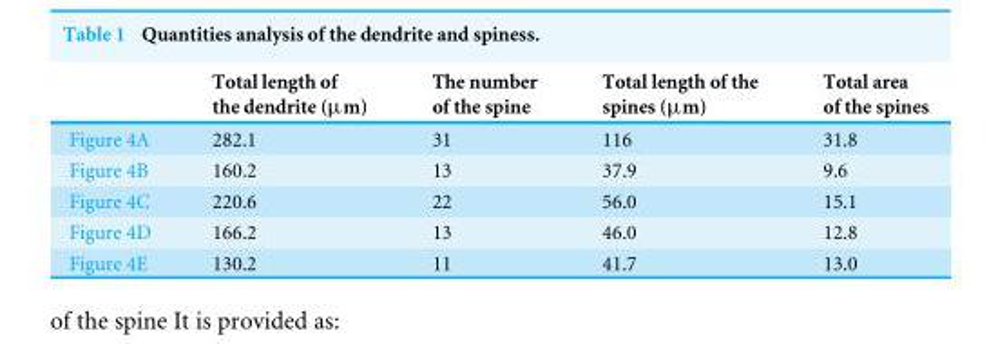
<table><thead><tr><td></td><td>Total length of the dendrite (µm)</td><td>The number of the spine</td><td>Total length of the spines (µm)</td><td>Total area of the spines</td></tr></thead><tbody><tr><td>Figure 4A</td><td>282.1</td><td>31</td><td>116</td><td>31.8</td></tr><tr><td>Figure 4B</td><td>160.2</td><td>13</td><td>37.9</td><td>9.6</td></tr><tr><td>Figure 4C</td><td>220.6</td><td>22</td><td>56.0</td><td>15.1</td></tr><tr><td>Figure 4D</td><td>166.2</td><td>13</td><td>46.0</td><td>12.8</td></tr><tr><td>Figure 4E</td><td>130.2</td><td>11</td><td>41.7</td><td>13.0</td></tr></tbody></table>